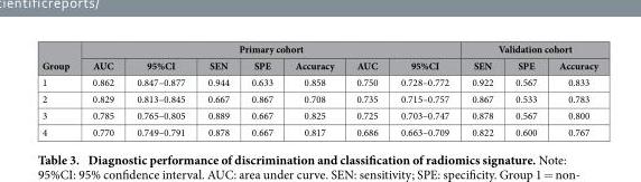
<table><thead><tr><td rowspan="2">Group</td><td colspan="7">Primary cohort</td><td colspan="3">Validation cohort</td></tr><tr><td>AUC</td><td>95%CI</td><td>SEN</td><td>SPE</td><td>Accuracy</td><td>AUC</td><td>95%CI</td><td>SEN</td><td>SPE</td><td>Accuracy</td></tr></thead><tbody><tr><td>1</td><td>0.862</td><td>0.847–0.877</td><td>0.944</td><td>0.633</td><td>0.858</td><td>0.750</td><td>0.728–0.772</td><td>0.922</td><td>0.567</td><td>0.833</td></tr><tr><td>2</td><td>0.829</td><td>0.813–0.845</td><td>0.667</td><td>0.867</td><td>0.708</td><td>0.735</td><td>0.715–0.757</td><td>0.867</td><td>0.533</td><td>0.783</td></tr><tr><td>3</td><td>0.785</td><td>0.765–0.805</td><td>0.889</td><td>0.667</td><td>0.825</td><td>0.725</td><td>0.703–0.747</td><td>0.878</td><td>0.567</td><td>0.800</td></tr><tr><td>4</td><td>0.770</td><td>0.749–0.791</td><td>0.878</td><td>0.667</td><td>0.817</td><td>0.686</td><td>0.663–0.709</td><td>0.822</td><td>0.600</td><td>0.767</td></tr></tbody></table>